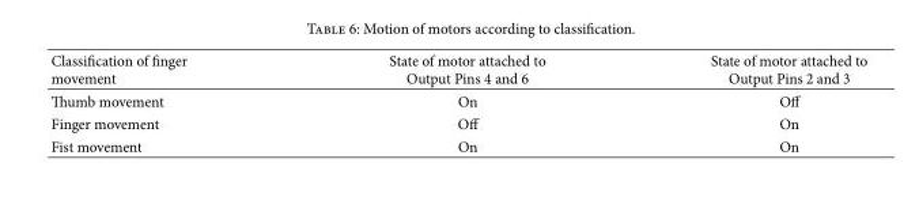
<table><thead><tr><td>Classification of finger movement</td><td>State of motor attached to Output Pins 4 and 6</td><td>State of motor attached to Output Pins 2 and 3</td></tr></thead><tbody><tr><td>Thumb movement</td><td>On</td><td>Off</td></tr><tr><td>Finger movement</td><td>Off</td><td>On</td></tr><tr><td>Fist movement</td><td>On</td><td>On</td></tr></tbody></table>